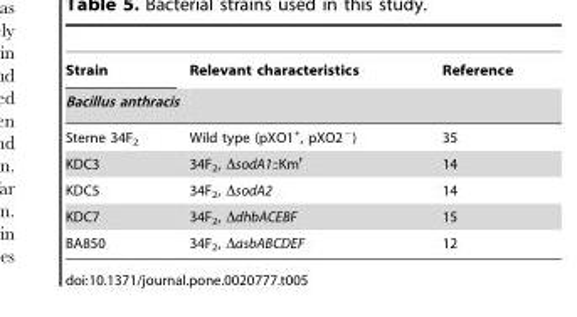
<table><thead><tr><td rowspan="2">Strain Bacillus anthracis</td><td rowspan="2">Relevant characteristics</td><td rowspan="2">Reference</td></tr><tr></tr></thead><tbody><tr><td>Sterne 34F<sub>2</sub></td><td>Wild type (pXO1<sup>+</sup>, pXO2<sup>−</sup>)</td><td>35</td></tr><tr><td>KDC3</td><td>34F<sub>2</sub>, ΔsodA1::Km<sup>r</sup></td><td>14</td></tr><tr><td>KDC5</td><td>34F<sub>2</sub>, ΔsodA2</td><td>14</td></tr><tr><td>KDC7</td><td>34F<sub>2</sub>, ΔdhbACEBF</td><td>15</td></tr><tr><td>BA850</td><td>34F<sub>2</sub>, ΔasbABCDEF</td><td>12</td></tr></tbody></table>